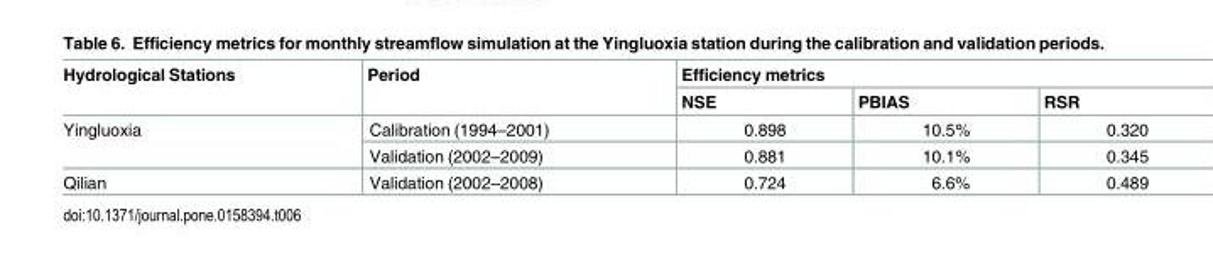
<table><thead><tr><td rowspan="2">Hydrological Stations</td><td rowspan="2">Period</td><td colspan="3">Efficiency metrics</td></tr><tr><td>NSE</td><td>PBIAS</td><td>RSR</td></tr></thead><tbody><tr><td rowspan="2">Yingluoxia</td><td>Calibration (1994–2001)</td><td>0.898</td><td>10.5%</td><td>0.320</td></tr><tr><td>Validation (2002–2009)</td><td>0.881</td><td>10.1%</td><td>0.345</td></tr><tr><td>Qilian</td><td>Validation (2002–2008)</td><td>0.724</td><td>6.6%</td><td>0.489</td></tr></tbody></table>